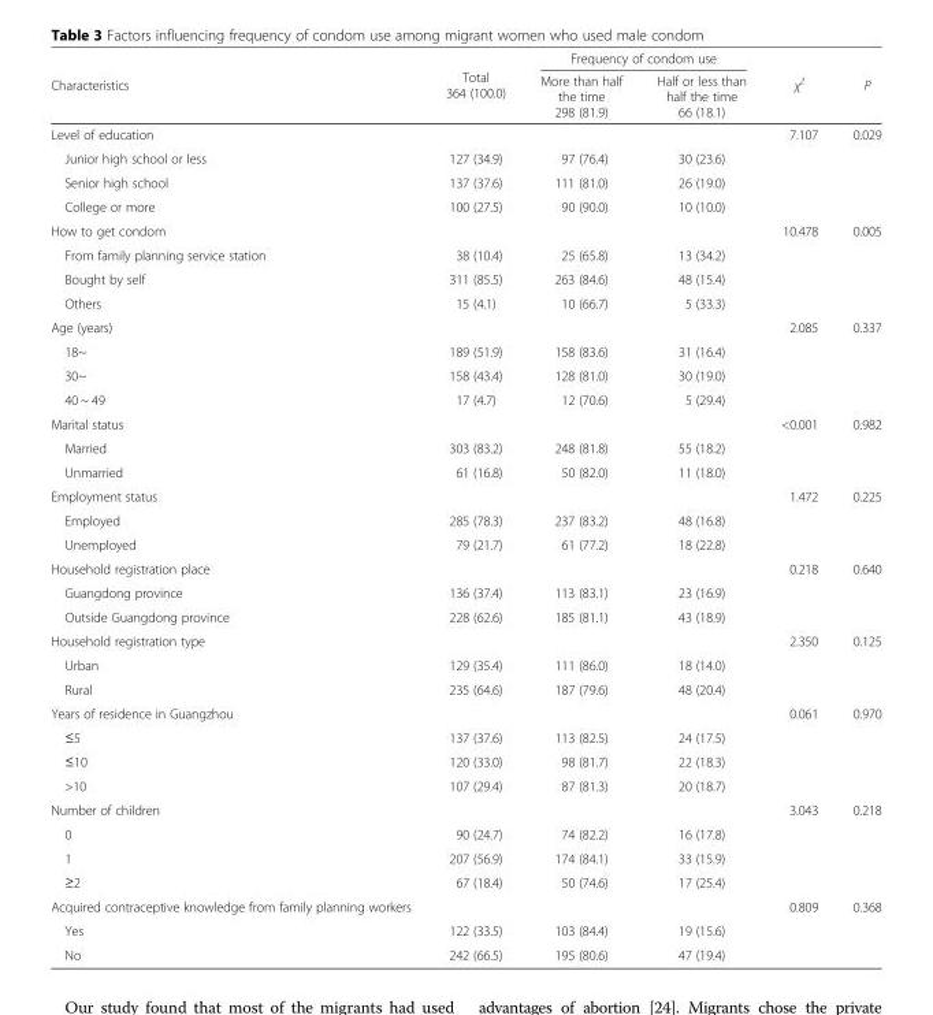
<table><thead><tr><td rowspan="2">Characteristics</td><td rowspan="2">Total 364 (100.0)</td><td colspan="2">Frequency of condom use</td><td rowspan="2">χ<sup>2</sup></td><td rowspan="2">P</td></tr><tr><td>More than half the time 298 (81.9)</td><td>Half or less than half the time 66 (18.1)</td></tr></thead><tbody><tr><td>Level of education</td><td></td><td></td><td></td><td>7.107</td><td>0.029</td></tr><tr><td>Junior high school or less</td><td>127 (34.9)</td><td>97 (76.4)</td><td>30 (23.6)</td><td></td><td></td></tr><tr><td>Senior high school</td><td>137 (37.6)</td><td>111 (81.0)</td><td>26 (19.0)</td><td></td><td></td></tr><tr><td>College or more</td><td>100 (27.5)</td><td>90 (90.0)</td><td>10 (10.0)</td><td></td><td></td></tr><tr><td>How to get condom</td><td></td><td></td><td></td><td>10.478</td><td>0.005</td></tr><tr><td>From family planning service station</td><td>38 (10.4)</td><td>25 (65.8)</td><td>13 (34.2)</td><td></td><td></td></tr><tr><td>Bought by self</td><td>311 (85.5)</td><td>263 (84.6)</td><td>48 (15.4)</td><td></td><td></td></tr><tr><td>Others</td><td>15 (4.1)</td><td>10 (66.7)</td><td>5 (33.3)</td><td></td><td></td></tr><tr><td>Age (years)</td><td></td><td></td><td></td><td>2.085</td><td>0.337</td></tr><tr><td>18~</td><td>189 (51.9)</td><td>158 (83.6)</td><td>31 (16.4)</td><td></td><td></td></tr><tr><td>30~</td><td>158 (43.4)</td><td>128 (81.0)</td><td>30 (19.0)</td><td></td><td></td></tr><tr><td>40 ~ 49</td><td>17 (4.7)</td><td>12 (70.6)</td><td>5 (29.4)</td><td></td><td></td></tr><tr><td>Marital status</td><td></td><td></td><td></td><td>&lt;0.001</td><td>0.982</td></tr><tr><td>Married</td><td>303 (83.2)</td><td>248 (81.8)</td><td>55 (18.2)</td><td></td><td></td></tr><tr><td>Unmarried</td><td>61 (16.8)</td><td>50 (82.0)</td><td>11 (18.0)</td><td></td><td></td></tr><tr><td>Employment status</td><td></td><td></td><td></td><td>1.472</td><td>0.225</td></tr><tr><td>Employed</td><td>285 (78.3)</td><td>237 (83.2)</td><td>48 (16.8)</td><td></td><td></td></tr><tr><td>Unemployed</td><td>79 (21.7)</td><td>61 (77.2)</td><td>18 (22.8)</td><td></td><td></td></tr><tr><td>Household registration place</td><td></td><td></td><td></td><td>0.218</td><td>0.640</td></tr><tr><td>Guangdong province</td><td>136 (37.4)</td><td>113 (83.1)</td><td>23 (16.9)</td><td></td><td></td></tr><tr><td>Outside Guangdong province</td><td>228 (62.6)</td><td>185 (81.1)</td><td>43 (18.9)</td><td></td><td></td></tr><tr><td>Household registration type</td><td></td><td></td><td></td><td>2.350</td><td>0.125</td></tr><tr><td>Urban</td><td>129 (35.4)</td><td>111 (86.0)</td><td>18 (14.0)</td><td></td><td></td></tr><tr><td>Rural</td><td>235 (64.6)</td><td>187 (79.6)</td><td>48 (20.4)</td><td></td><td></td></tr><tr><td>Years of residence in Guangzhou</td><td></td><td></td><td></td><td>0.061</td><td>0.970</td></tr><tr><td>≤5</td><td>137 (37.6)</td><td>113 (82.5)</td><td>24 (17.5)</td><td></td><td></td></tr><tr><td>≤10</td><td>120 (33.0)</td><td>98 (81.7)</td><td>22 (18.3)</td><td></td><td></td></tr><tr><td>&gt;10</td><td>107 (29.4)</td><td>87 (81.3)</td><td>20 (18.7)</td><td></td><td></td></tr><tr><td>Number of children</td><td></td><td></td><td></td><td>3.043</td><td>0.218</td></tr><tr><td>0</td><td>90 (24.7)</td><td>74 (82.2)</td><td>16 (17.8)</td><td></td><td></td></tr><tr><td>1</td><td>207 (56.9)</td><td>174 (84.1)</td><td>33 (15.9)</td><td></td><td></td></tr><tr><td>≥2</td><td>67 (18.4)</td><td>50 (74.6)</td><td>17 (25.4)</td><td></td><td></td></tr><tr><td>Acquired contraceptive knowledge from family planning workers</td><td></td><td></td><td></td><td>0.809</td><td>0.368</td></tr><tr><td>Yes</td><td>122 (33.5)</td><td>103 (84.4)</td><td>19 (15.6)</td><td></td><td></td></tr><tr><td>No</td><td>242 (66.5)</td><td>195 (80.6)</td><td>47 (19.4)</td><td></td><td></td></tr></tbody></table>